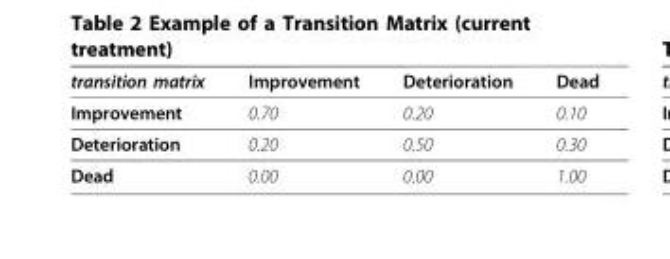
<table><thead><tr><td>transition matrix</td><td>Improvement</td><td>Deterioration</td><td>Dead</td></tr></thead><tbody><tr><td>Improvement</td><td>0.70</td><td>0.20</td><td>0.10</td></tr><tr><td>Deterioration</td><td>0.20</td><td>0.50</td><td>0.30</td></tr><tr><td>Dead</td><td>0.00</td><td>0.00</td><td>1.00</td></tr></tbody></table>